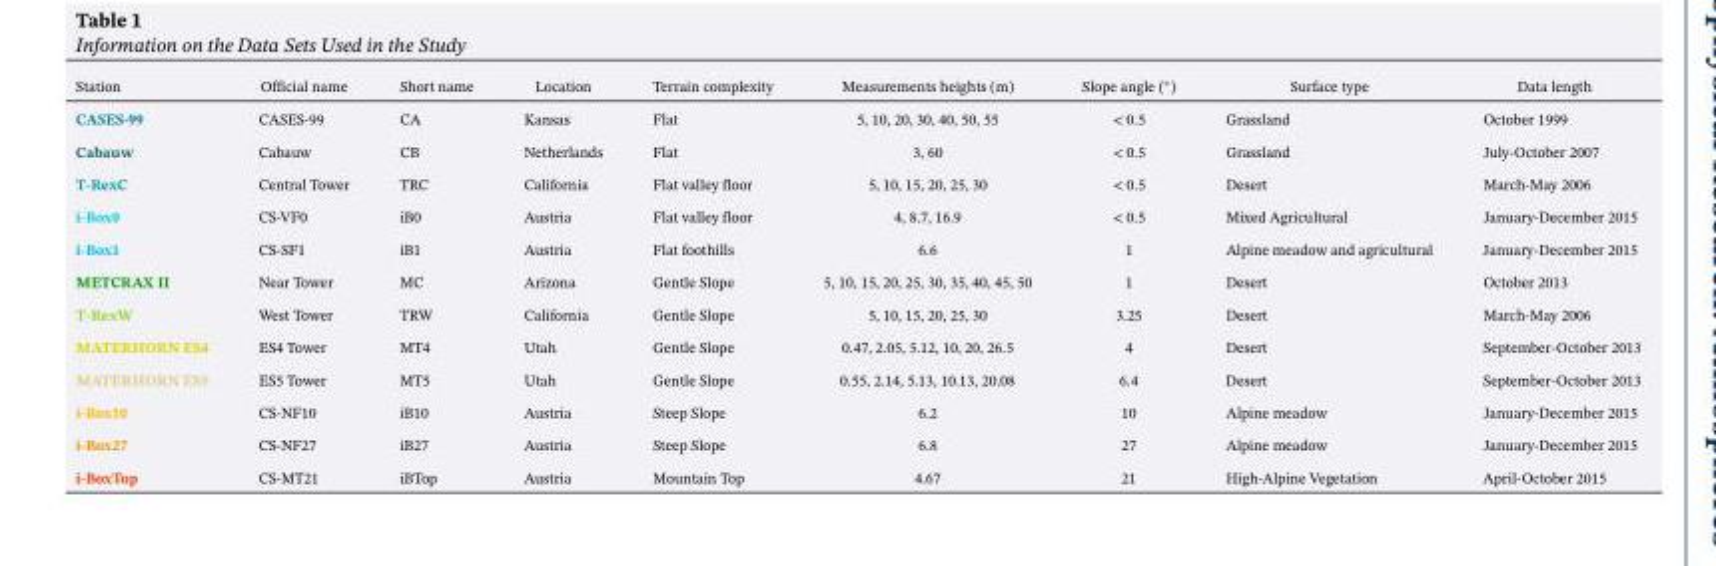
<table><thead><tr><td>Station</td><td>Official name</td><td>Short name</td><td>Location</td><td>Terrain complexity</td><td>Measurements heights (m)</td><td>Slope angle (◦)</td><td>Surface type</td><td>Data length</td></tr></thead><tbody><tr><td>CASES-99</td><td>CASES-99</td><td>CA</td><td>Kansas</td><td>Flat</td><td>5, 10, 20, 30, 40, 50, 55</td><td>&lt; 0.5</td><td>Grassland</td><td>October 1999</td></tr><tr><td>Cabauw</td><td>Cabauw</td><td>CB</td><td>Netherlands</td><td>Flat</td><td>3, 60</td><td>&lt; 0.5</td><td>Grassland</td><td>July-October 2007</td></tr><tr><td>T-RexC</td><td>Central Tower</td><td>TRC</td><td>California</td><td>Flat valley floor</td><td>5, 10, 15, 20, 25, 30</td><td>&lt; 0.5</td><td>Desert</td><td>March-May 2006</td></tr><tr><td>i-Box0</td><td>CS-VF0</td><td>iB0</td><td>Austria</td><td>Flat valley floor</td><td>4, 8.7, 16.9</td><td>&lt; 0.5</td><td>Mixed Agricultural</td><td>January-December 2015</td></tr><tr><td>i-Box1</td><td>CS-SF1</td><td>iB1</td><td>Austria</td><td>Flat foothills</td><td>6.6</td><td>1</td><td>Alpine meadow and agricultural</td><td>January-December 2015</td></tr><tr><td>METCRAX II</td><td>Near Tower</td><td>MC</td><td>Arizona</td><td>Gentle Slope</td><td>5, 10, 15, 20, 25, 30, 35, 40, 45, 50</td><td>1</td><td>Desert</td><td>October 2013</td></tr><tr><td>T-RexW</td><td>West Tower</td><td>TRW</td><td>California</td><td>Gentle Slope</td><td>5, 10, 15, 20, 25, 30</td><td>3.25</td><td>Desert</td><td>March-May 2006</td></tr><tr><td>MATERHORN ES4</td><td>ES4 Tower</td><td>MT4</td><td>Utah</td><td>Gentle Slope</td><td>0.47, 2.05, 5.12, 10, 20, 26.5</td><td>4</td><td>Desert</td><td>September-October 2013</td></tr><tr><td>MATERHORN ES5</td><td>ES5 Tower</td><td>MT5</td><td>Utah</td><td>Gentle Slope</td><td>0.55, 2.14, 5.13, 10.13, 20.08</td><td>6.4</td><td>Desert</td><td>September-October 2013</td></tr><tr><td>i-Box10</td><td>CS-NF10</td><td>iB10</td><td>Austria</td><td>Steep Slope</td><td>6.2</td><td>10</td><td>Alpine meadow</td><td>January-December 2015</td></tr><tr><td>i-Box27</td><td>CS-NF27</td><td>iB27</td><td>Austria</td><td>Steep Slope</td><td>6.8</td><td>27</td><td>Alpine meadow</td><td>January-December 2015</td></tr><tr><td>i-BoxTop</td><td>CS-MT21</td><td>iBTop</td><td>Austria</td><td>Mountain Top</td><td>4.67</td><td>21</td><td>High-Alpine Vegetation</td><td>April-October 2015</td></tr></tbody></table>